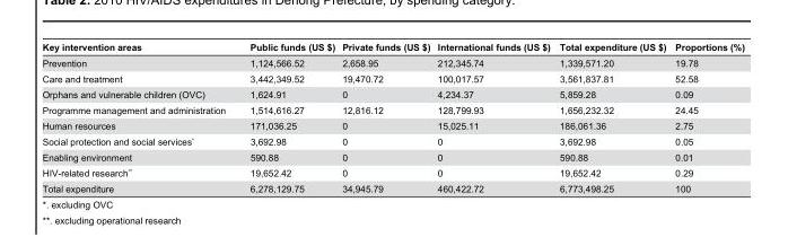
<table><thead><tr><td>Key intervention areas</td><td>Public funds (US $)</td><td>Private funds (US $)</td><td>International funds (US $)</td><td>Total expenditure (US $)</td><td>Proportions (%)</td></tr></thead><tbody><tr><td>Prevention</td><td>1,124,566.52</td><td>2,658.95</td><td>212,345.74</td><td>1,339,571.20</td><td>19.78</td></tr><tr><td>Care and treatment</td><td>3,442,349.52</td><td>19,470.72</td><td>100,017.57</td><td>3,561,837.81</td><td>52.58</td></tr><tr><td>Orphans and vulnerable children (OVC)</td><td>1,624.91</td><td>0</td><td>4,234.37</td><td>5,859.28</td><td>0.09</td></tr><tr><td>Programme management and administration</td><td>1,514,616.27</td><td>12,816.12</td><td>128,799.93</td><td>1,656,232.32</td><td>24.45</td></tr><tr><td>Human resources</td><td>171,036.25</td><td>0</td><td>15,025.11</td><td>186,061.36</td><td>2.75</td></tr><tr><td>Social protection and social services*</td><td>3,692.98</td><td>0</td><td>0</td><td>3,692.98</td><td>0.05</td></tr><tr><td>Enabling environment</td><td>590.88</td><td>0</td><td>0</td><td>590.88</td><td>0.01</td></tr><tr><td>HIV-related research**</td><td>19,652.42</td><td>0</td><td>0</td><td>19,652.42</td><td>0.29</td></tr><tr><td>Total expenditure</td><td>6,278,129.75</td><td>34,945.79</td><td>460,422.72</td><td>6,773,498.25</td><td>100</td></tr></tbody></table>